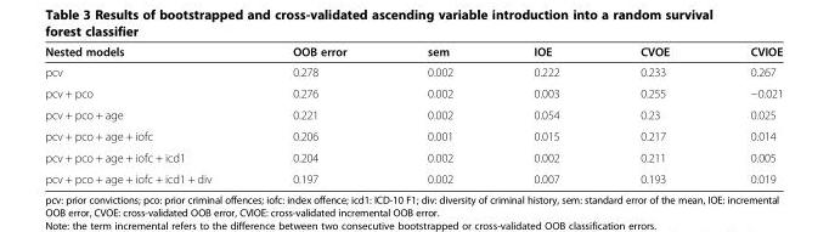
<table><thead><tr><td>Nested models</td><td>OOB error</td><td>sem</td><td>IOE</td><td>CVOE</td><td>CVIOE</td></tr></thead><tbody><tr><td>pcv</td><td>0.278</td><td>0.002</td><td>0.222</td><td>0.233</td><td>0.267</td></tr><tr><td>pcv + pco</td><td>0.276</td><td>0.002</td><td>0.003</td><td>0.255</td><td>−0.021</td></tr><tr><td>pcv + pco + age</td><td>0.221</td><td>0.002</td><td>0.054</td><td>0.23</td><td>0.025</td></tr><tr><td>pcv + pco + age + iofc</td><td>0.206</td><td>0.001</td><td>0.015</td><td>0.217</td><td>0.014</td></tr><tr><td>pcv + pco + age + iofc + icd1</td><td>0.204</td><td>0.002</td><td>0.002</td><td>0.211</td><td>0.005</td></tr><tr><td>pcv + pco + age + iofc + icd1 + div</td><td>0.197</td><td>0.002</td><td>0.007</td><td>0.193</td><td>0.019</td></tr></tbody></table>